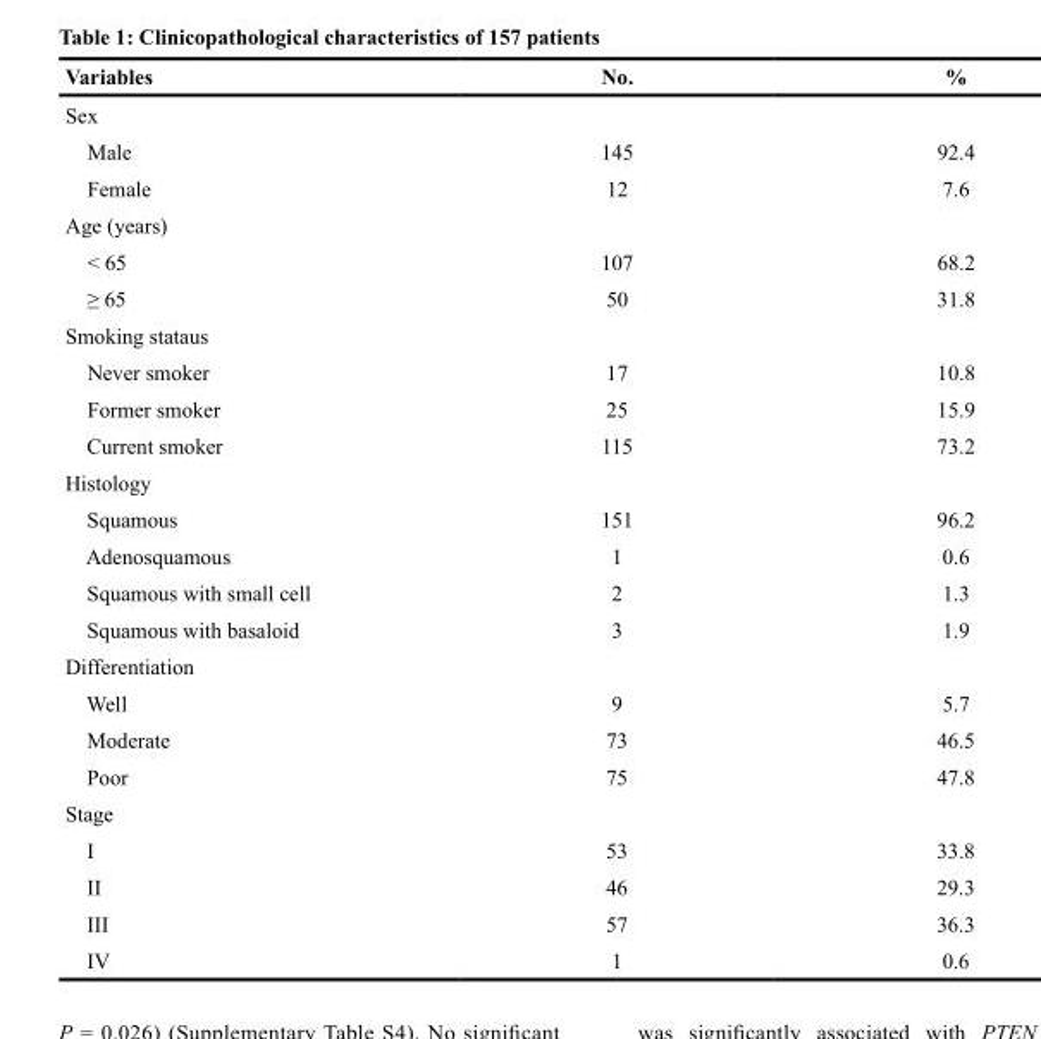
<table><thead><tr><td>Variables</td><td>No.</td><td>%</td></tr></thead><tbody><tr><td colspan="3">Sex</td></tr><tr><td>Male</td><td>145</td><td>92.4</td></tr><tr><td>Female</td><td>12</td><td>7.6</td></tr><tr><td colspan="3">Age (years)</td></tr><tr><td>&lt; 65</td><td>107</td><td>68.2</td></tr><tr><td>≥ 65</td><td>50</td><td>31.8</td></tr><tr><td colspan="3">Smoking stataus</td></tr><tr><td>Never smoker</td><td>17</td><td>10.8</td></tr><tr><td>Former smoker</td><td>25</td><td>15.9</td></tr><tr><td>Current smoker</td><td>115</td><td>73.2</td></tr><tr><td colspan="3">Histology</td></tr><tr><td>Squamous</td><td>151</td><td>96.2</td></tr><tr><td>Adenosquamous</td><td>1</td><td>0.6</td></tr><tr><td>Squamous with small cell</td><td>2</td><td>1.3</td></tr><tr><td>Squamous with basaloid</td><td>3</td><td>1.9</td></tr><tr><td colspan="3">Differentiation</td></tr><tr><td>Well</td><td>9</td><td>5.7</td></tr><tr><td>Moderate</td><td>73</td><td>46.5</td></tr><tr><td>Poor</td><td>75</td><td>47.8</td></tr><tr><td colspan="3">Stage</td></tr><tr><td>I</td><td>53</td><td>33.8</td></tr><tr><td>II</td><td>46</td><td>29.3</td></tr><tr><td>III</td><td>57</td><td>36.3</td></tr><tr><td>IV</td><td>1</td><td>0.6</td></tr></tbody></table>